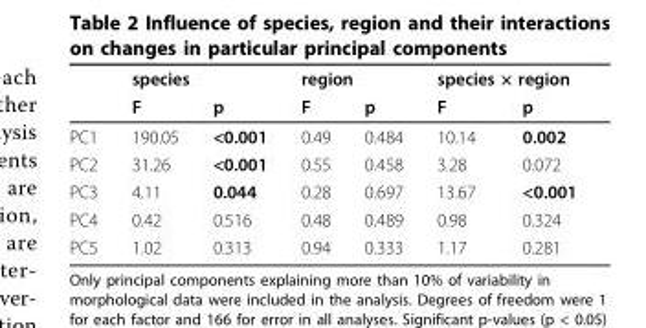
<table><thead><tr><td rowspan="2"></td><td colspan="2">species</td><td colspan="2">region</td><td colspan="2">species × region</td></tr><tr><td>F</td><td>p</td><td>F</td><td>p</td><td>F</td><td>p</td></tr></thead><tbody><tr><td>PC1</td><td>190.05</td><td>&lt;0.001</td><td>0.49</td><td>0.484</td><td>10.14</td><td>0.002</td></tr><tr><td>PC2</td><td>31.26</td><td>&lt;0.001</td><td>0.55</td><td>0.458</td><td>3.28</td><td>0.072</td></tr><tr><td>PC3</td><td>4.11</td><td>0.044</td><td>0.28</td><td>0.697</td><td>13.67</td><td>&lt;0.001</td></tr><tr><td>PC4</td><td>0.42</td><td>0.516</td><td>0.48</td><td>0.489</td><td>0.98</td><td>0.324</td></tr><tr><td>PC5</td><td>1.02</td><td>0.313</td><td>0.94</td><td>0.333</td><td>1.17</td><td>0.281</td></tr></tbody></table>